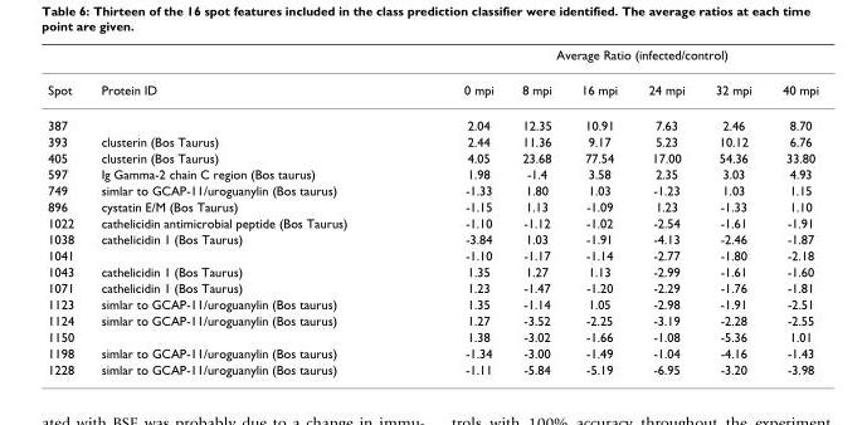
<table><thead><tr><td rowspan="2">Spot</td><td rowspan="2">Protein ID</td><td colspan="6">Average Ratio (infected/control)</td></tr><tr><td>0 mpi</td><td>8 mpi</td><td>16 mpi</td><td>24 mpi</td><td>32 mpi</td><td>40 mpi</td></tr></thead><tbody><tr><td>387</td><td></td><td>2.04</td><td>12.35</td><td>10.91</td><td>7.63</td><td>2.46</td><td>8.70</td></tr><tr><td>393</td><td>clusterin (Bos Taurus)</td><td>2.44</td><td>11.36</td><td>9.17</td><td>5.23</td><td>10.12</td><td>6.76</td></tr><tr><td>405</td><td>clusterin (Bos Taurus)</td><td>4.05</td><td>23.68</td><td>77.54</td><td>17.00</td><td>54.36</td><td>33.80</td></tr><tr><td>597</td><td>Ig Gamma-2 chain C region (Bos taurus)</td><td>1.98</td><td>-1.4</td><td>3.58</td><td>2.35</td><td>3.03</td><td>4.93</td></tr><tr><td>749</td><td>simlar to GCAP-11/uroguanylin (Bos taurus)</td><td>-1.33</td><td>1.80</td><td>1.03</td><td>-1.23</td><td>1.03</td><td>1.15</td></tr><tr><td>896</td><td>cystatin E/M (Bos Taurus)</td><td>-1.15</td><td>1.13</td><td>-1.09</td><td>1.23</td><td>-1.33</td><td>1.10</td></tr><tr><td>1022</td><td>cathelicidin antimicrobial peptide (Bos Taurus)</td><td>-1.10</td><td>-1.12</td><td>-1.02</td><td>-2.54</td><td>-1.61</td><td>-1.91</td></tr><tr><td>1038</td><td>cathelicidin 1 (Bos Taurus)</td><td>-3.84</td><td>1.03</td><td>-1.91</td><td>-4.13</td><td>-2.46</td><td>-1.87</td></tr><tr><td>1041</td><td></td><td>-1.10</td><td>-1.17</td><td>-1.14</td><td>-2.77</td><td>-1.80</td><td>-2.18</td></tr><tr><td>1043</td><td>cathelicidin 1 (Bos Taurus)</td><td>1.35</td><td>1.27</td><td>1.13</td><td>-2.99</td><td>-1.61</td><td>-1.60</td></tr><tr><td>1071</td><td>cathelicidin 1 (Bos Taurus)</td><td>1.23</td><td>-1.47</td><td>-1.20</td><td>-2.29</td><td>-1.76</td><td>-1.81</td></tr><tr><td>1123</td><td>simlar to GCAP-11/uroguanylin (Bos taurus)</td><td>1.35</td><td>-1.14</td><td>1.05</td><td>-2.98</td><td>-1.91</td><td>-2.51</td></tr><tr><td>1124</td><td>simlar to GCAP-11/uroguanylin (Bos taurus)</td><td>1.27</td><td>-3.52</td><td>-2.25</td><td>-3.19</td><td>-2.28</td><td>-2.55</td></tr><tr><td>1150</td><td></td><td>1.38</td><td>-3.02</td><td>-1.66</td><td>-1.08</td><td>-5.36</td><td>1.01</td></tr><tr><td>1198</td><td>simlar to GCAP-11/uroguanylin (Bos taurus)</td><td>-1.34</td><td>-3.00</td><td>-1.49</td><td>-1.04</td><td>-4.16</td><td>-1.43</td></tr><tr><td>1228</td><td>simlar to GCAP-11/uroguanylin (Bos taurus)</td><td>-1.11</td><td>-5.84</td><td>-5.19</td><td>-6.95</td><td>-3.20</td><td>-3.98</td></tr></tbody></table>